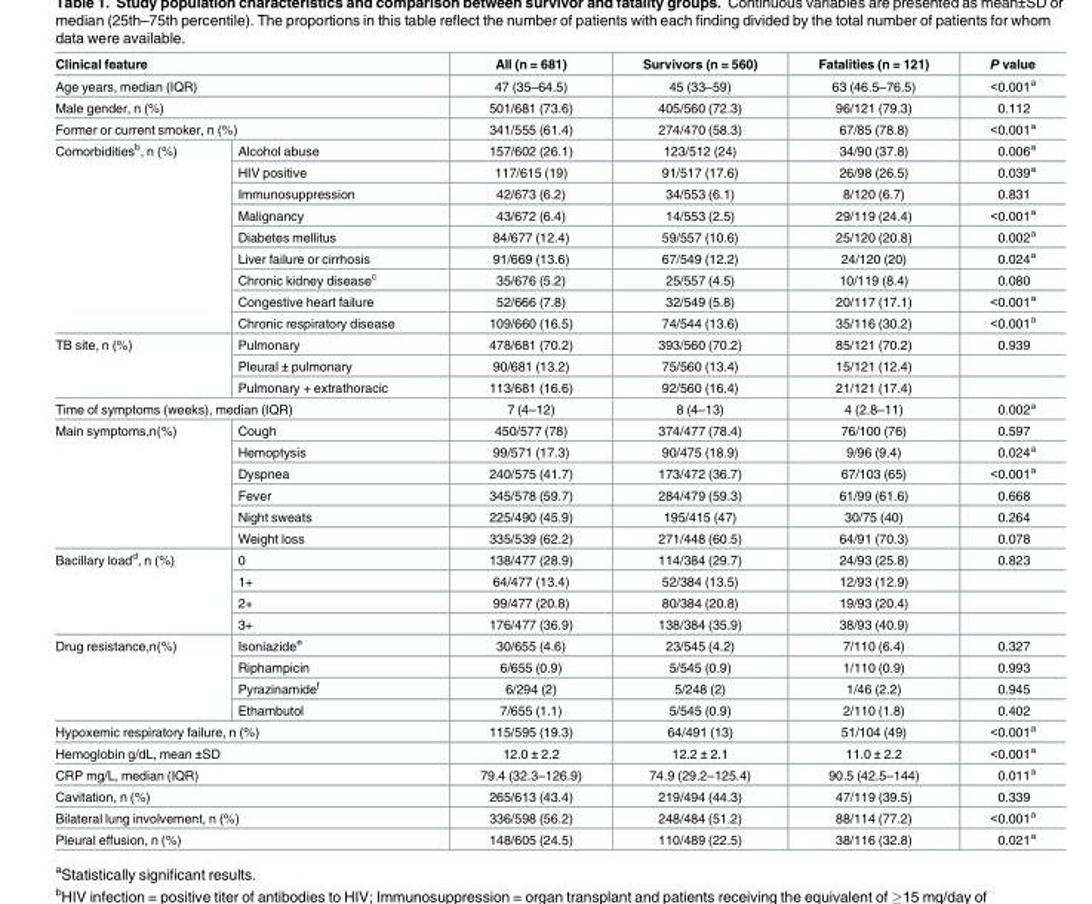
<table><thead><tr><td colspan="2">Clinical feature</td><td>All (n = 681)</td><td>Survivors (n = 560)</td><td>Fatalities (n = 121)</td><td>P value</td></tr></thead><tbody><tr><td colspan="2">Age years, median (IQR)</td><td>47 (35–64.5)</td><td>45 (33–59)</td><td>63 (46.5–76.5)</td><td>&lt;0.001<sup>a</sup></td></tr><tr><td colspan="2">Male gender, n (%)</td><td>501/681 (73.6)</td><td>405/560 (72.3)</td><td>96/121 (79.3)</td><td>0.112</td></tr><tr><td colspan="2">Former or current smoker, n (%)</td><td>341/555 (61.4)</td><td>274/470 (58.3)</td><td>67/85 (78.8)</td><td>&lt;0.001<sup>a</sup></td></tr><tr><td rowspan="9">Comorbidities<sup>b</sup>, n (%)</td><td>Alcohol abuse</td><td>157/602 (26.1)</td><td>123/512 (24)</td><td>34/90 (37.8)</td><td>0.006<sup>a</sup></td></tr><tr><td>HIV positive</td><td>117/615 (19)</td><td>91/517 (17.6)</td><td>26/98 (26.5)</td><td>0.039<sup>a</sup></td></tr><tr><td>Immunosuppression</td><td>42/673 (6.2)</td><td>34/553 (6.1)</td><td>8/120 (6.7)</td><td>0.831</td></tr><tr><td>Malignancy</td><td>43/672 (6.4)</td><td>14/553 (2.5)</td><td>29/119 (24.4)</td><td>&lt;0.001<sup>a</sup></td></tr><tr><td>Diabetes mellitus</td><td>84/677 (12.4)</td><td>59/557 (10.6)</td><td>25/120 (20.8)</td><td>0.002<sup>a</sup></td></tr><tr><td>Liver failure or cirrhosis</td><td>91/669 (13.6)</td><td>67/549 (12.2)</td><td>24/120 (20)</td><td>0.024<sup>a</sup></td></tr><tr><td>Chronic kidney disease<sup>c</sup></td><td>35/676 (5.2)</td><td>25/557 (4.5)</td><td>10/119 (8.4)</td><td>0.080</td></tr><tr><td>Congestive heart failure</td><td>52/666 (7.8)</td><td>32/549 (5.8)</td><td>20/117 (17.1)</td><td>&lt;0.001<sup>a</sup></td></tr><tr><td>Chronic respiratory disease</td><td>109/660 (16.5)</td><td>74/544 (13.6)</td><td>35/116 (30.2)</td><td>&lt;0.001<sup>a</sup></td></tr><tr><td rowspan="3">TB site, n (%)</td><td>Pulmonary</td><td>478/681 (70.2)</td><td>393/560 (70.2)</td><td>85/121 (70.2)</td><td>0.939</td></tr><tr><td>Pleural ± pulmonary</td><td>90/681 (13.2)</td><td>75/560 (13.4)</td><td>15/121 (12.4)</td><td></td></tr><tr><td>Pulmonary + extrathoracic</td><td>113/681 (16.6)</td><td>92/560 (16.4)</td><td>21/121 (17.4)</td><td></td></tr><tr><td colspan="2">Time of symptoms (weeks), median (IQR)</td><td>7 (4–12)</td><td>8 (4–13)</td><td>4 (2.8–11)</td><td>0.002<sup>a</sup></td></tr><tr><td rowspan="6">Main symptoms,n(%)</td><td>Cough</td><td>450/577 (78)</td><td>374/477 (78.4)</td><td>76/100 (76)</td><td>0.597</td></tr><tr><td>Hemoptysis</td><td>99/571 (17.3)</td><td>90/475 (18.9)</td><td>9/96 (9.4)</td><td>0.024<sup>a</sup></td></tr><tr><td>Dyspnea</td><td>240/575 (41.7)</td><td>173/472 (36.7)</td><td>67/103 (65)</td><td>&lt;0.001<sup>a</sup></td></tr><tr><td>Fever</td><td>345/578 (59.7)</td><td>284/479 (59.3)</td><td>61/99 (61.6)</td><td>0.668</td></tr><tr><td>Night sweats</td><td>225/490 (45.9)</td><td>195/415 (47)</td><td>30/75 (40)</td><td>0.264</td></tr><tr><td>Weight loss</td><td>335/539 (62.2)</td><td>271/448 (60.5)</td><td>64/91 (70.3)</td><td>0.078</td></tr><tr><td rowspan="4">Bacillary load<sup>d</sup>, n (%)</td><td>0</td><td>138/477 (28.9)</td><td>114/384 (29.7)</td><td>24/93 (25.8)</td><td>0.823</td></tr><tr><td>1+</td><td>64/477 (13.4)</td><td>52/384 (13.5)</td><td>12/93 (12.9)</td><td></td></tr><tr><td>2+</td><td>99/477 (20.8)</td><td>80/384 (20.8)</td><td>19/93 (20.4)</td><td></td></tr><tr><td>3+</td><td>176/477 (36.9)</td><td>138/384 (35.9)</td><td>38/93 (40.9)</td><td></td></tr><tr><td rowspan="4">Drug resistance,n(%)</td><td>Isoniazide<sup>e</sup></td><td>30/655 (4.6)</td><td>23/545 (4.2)</td><td>7/110 (6.4)</td><td>0.327</td></tr><tr><td>Riphampicin</td><td>6/655 (0.9)</td><td>5/545 (0.9)</td><td>1/110 (0.9)</td><td>0.993</td></tr><tr><td>Pyrazinamide<sup>f</sup></td><td>6/294 (2)</td><td>5/248 (2)</td><td>1/46 (2.2)</td><td>0.945</td></tr><tr><td>Ethambutol</td><td>7/655 (1.1)</td><td>5/545 (0.9)</td><td>2/110 (1.8)</td><td>0.402</td></tr><tr><td colspan="2">Hypoxemic respiratory failure, n (%)</td><td>115/595 (19.3)</td><td>64/491 (13)</td><td>51/104 (49)</td><td>&lt;0.001<sup>a</sup></td></tr><tr><td colspan="2">Hemoglobin g/dL, mean ±SD</td><td>12.0 ± 2.2</td><td>12.2 ± 2.1</td><td>11.0 ± 2.2</td><td>&lt;0.001<sup>a</sup></td></tr><tr><td colspan="2">CRP mg/L, median (IQR)</td><td>79.4 (32.3–126.9)</td><td>74.9 (29.2–125.4)</td><td>90.5 (42.5–144)</td><td>0.011<sup>a</sup></td></tr><tr><td colspan="2">Cavitation, n (%)</td><td>265/613 (43.4)</td><td>219/494 (44.3)</td><td>47/119 (39.5)</td><td>0.339</td></tr><tr><td colspan="2">Bilateral lung involvement, n (%)</td><td>336/598 (56.2)</td><td>248/484 (51.2)</td><td>88/114 (77.2)</td><td>&lt;0.001<sup>a</sup></td></tr><tr><td colspan="2">Pleural effusion, n (%)</td><td>148/605 (24.5)</td><td>110/489 (22.5)</td><td>38/116 (32.8)</td><td>0.021<sup>a</sup></td></tr></tbody></table>